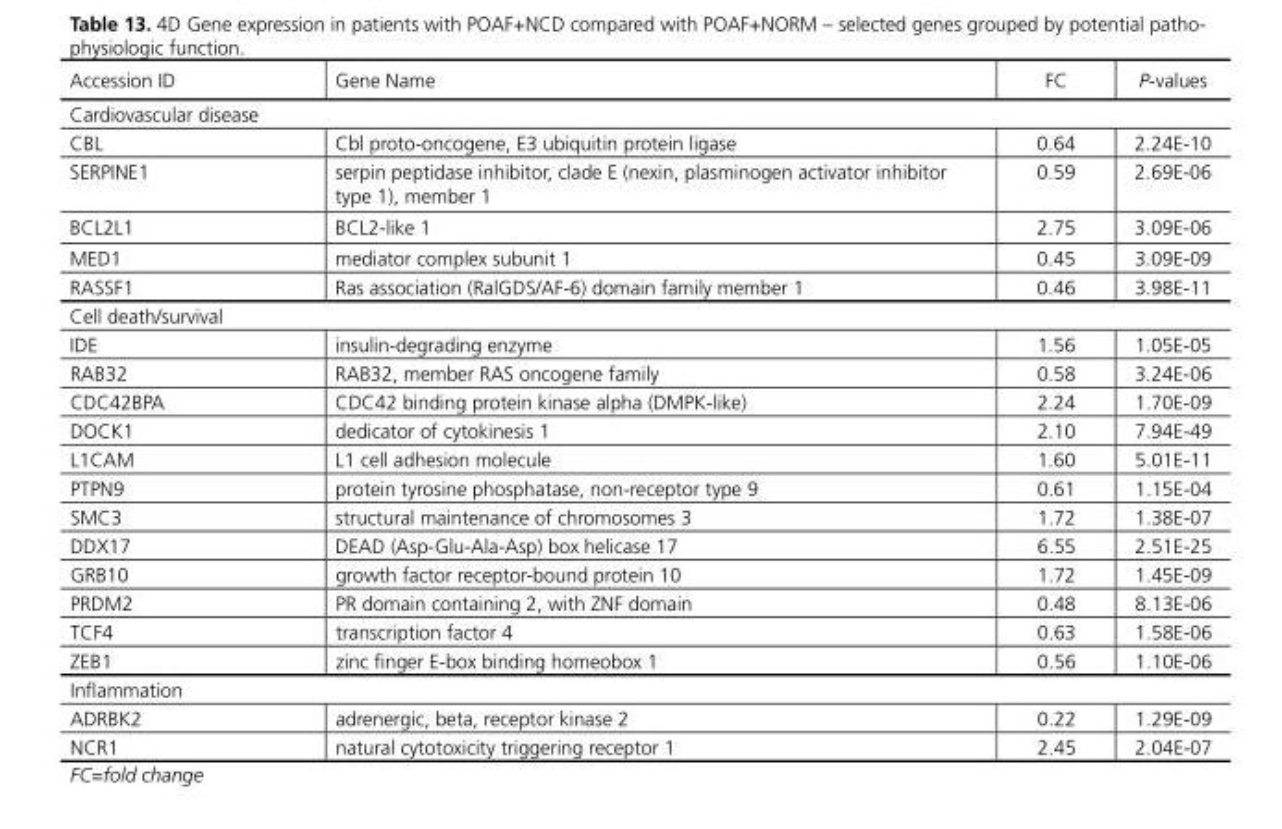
<table><thead><tr><td>Accession ID</td><td>Gene Name</td><td>FC</td><td>P-values</td></tr></thead><tbody><tr><td colspan="4">Cardiovascular disease</td></tr><tr><td>CBL</td><td>Cbl proto-oncogene, E3 ubiquitin protein ligase</td><td>0.64</td><td>2.24E-10</td></tr><tr><td>SERPINE1</td><td>serpin peptidase inhibitor, clade E (nexin, plasminogen activator inhibitor type 1), member 1</td><td>0.59</td><td>2.69E-06</td></tr><tr><td>BCL2L1</td><td>BCL2-like 1</td><td>2.75</td><td>3.09E-06</td></tr><tr><td>MED1</td><td>mediator complex subunit 1</td><td>0.45</td><td>3.09E-09</td></tr><tr><td>RASSF1</td><td>Ras association (RalGDS/AF-6) domain family member 1</td><td>0.46</td><td>3.98E-11</td></tr><tr><td colspan="4">Cell death/survival</td></tr><tr><td>IDE</td><td>insulin-degrading enzyme</td><td>1.56</td><td>1.05E-05</td></tr><tr><td>RAB32</td><td>RAB32, member RAS oncogene family</td><td>0.58</td><td>3.24E-06</td></tr><tr><td>CDC42BPA</td><td>CDC42 binding protein kinase alpha (DMPK-like)</td><td>2.24</td><td>1.70E-09</td></tr><tr><td>DOCK1</td><td>dedicator of cytokinesis 1</td><td>2.10</td><td>7.94E-49</td></tr><tr><td>L1CAM</td><td>L1 cell adhesion molecule</td><td>1.60</td><td>5.01E-11</td></tr><tr><td>PTPN9</td><td>protein tyrosine phosphatase, non-receptor type 9</td><td>0.61</td><td>1.15E-04</td></tr><tr><td>SMC3</td><td>structural maintenance of chromosomes 3</td><td>1.72</td><td>1.38E-07</td></tr><tr><td>DDX17</td><td>DEAD (Asp-Glu-Ala-Asp) box helicase 17</td><td>6.55</td><td>2.51E-25</td></tr><tr><td>GRB10</td><td>growth factor receptor-bound protein 10</td><td>1.72</td><td>1.45E-09</td></tr><tr><td>PRDM2</td><td>PR domain containing 2, with ZNF domain</td><td>0.48</td><td>8.13E-06</td></tr><tr><td>TCF4</td><td>transcription factor 4</td><td>0.63</td><td>1.58E-06</td></tr><tr><td>ZEB1</td><td>zinc finger E-box binding homeobox 1</td><td>0.56</td><td>1.10E-06</td></tr><tr><td colspan="4">Inflammation</td></tr><tr><td>ADRBK2</td><td>adrenergic, beta, receptor kinase 2</td><td>0.22</td><td>1.29E-09</td></tr><tr><td>NCR1</td><td>natural cytotoxicity triggering receptor 1</td><td>2.45</td><td>2.04E-07</td></tr></tbody></table>